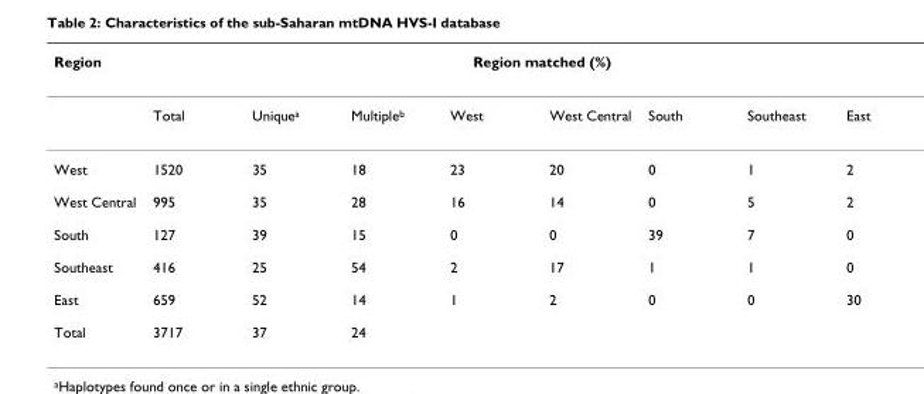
<table><thead><tr><td rowspan="2">Region</td><td colspan="8">Region matched (%)</td></tr><tr><td>Total</td><td>Uniquea</td><td>Multipleb</td><td>West</td><td>West Central</td><td>South</td><td>Southeast</td><td>East</td></tr></thead><tbody><tr><td>West</td><td>1520</td><td>35</td><td>18</td><td>23</td><td>20</td><td>0</td><td>1</td><td>2</td></tr><tr><td>West Central</td><td>995</td><td>35</td><td>28</td><td>16</td><td>14</td><td>0</td><td>5</td><td>2</td></tr><tr><td>South</td><td>127</td><td>39</td><td>15</td><td>0</td><td>0</td><td>39</td><td>7</td><td>0</td></tr><tr><td>Southeast</td><td>416</td><td>25</td><td>54</td><td>2</td><td>17</td><td>1</td><td>1</td><td>0</td></tr><tr><td>East</td><td>659</td><td>52</td><td>14</td><td>1</td><td>2</td><td>0</td><td>0</td><td>30</td></tr><tr><td>Total</td><td>3717</td><td>37</td><td>24</td><td></td><td></td><td></td><td></td><td></td></tr></tbody></table>